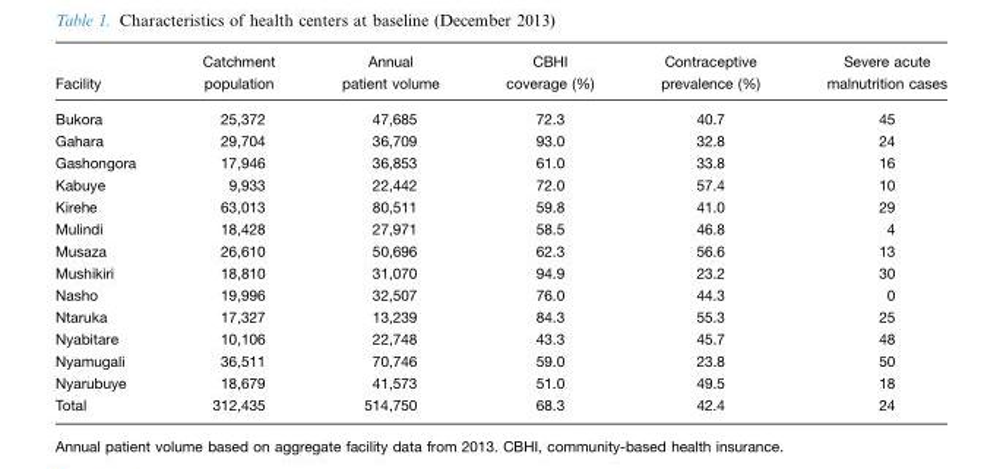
<table><thead><tr><td>Facility</td><td>Catchment population</td><td>Annual patient volume</td><td>CBHI coverage (%)</td><td>Contraceptive prevalence (%)</td><td>Severe acute malnutrition cases</td></tr></thead><tbody><tr><td>Bukora</td><td>25,372</td><td>47,685</td><td>72.3</td><td>40.7</td><td>45</td></tr><tr><td>Gahara</td><td>29,704</td><td>36,709</td><td>93.0</td><td>32.8</td><td>24</td></tr><tr><td>Gashongora</td><td>17,946</td><td>36,853</td><td>61.0</td><td>33.8</td><td>16</td></tr><tr><td>Kabuye</td><td>9,933</td><td>22,442</td><td>72.0</td><td>57.4</td><td>10</td></tr><tr><td>Kirehe</td><td>63,013</td><td>80,511</td><td>59.8</td><td>41.0</td><td>29</td></tr><tr><td>Mulindi</td><td>18,428</td><td>27,971</td><td>58.5</td><td>46.8</td><td>4</td></tr><tr><td>Musaza</td><td>26,610</td><td>50,696</td><td>62.3</td><td>56.6</td><td>13</td></tr><tr><td>Mushikiri</td><td>18,810</td><td>31,070</td><td>94.9</td><td>23.2</td><td>30</td></tr><tr><td>Nasho</td><td>19,996</td><td>32,507</td><td>76.0</td><td>44.3</td><td>0</td></tr><tr><td>Ntaruka</td><td>17,327</td><td>13,239</td><td>84.3</td><td>55.3</td><td>25</td></tr><tr><td>Nyabitare</td><td>10,106</td><td>22,748</td><td>43.3</td><td>45.7</td><td>48</td></tr><tr><td>Nyamugali</td><td>36,511</td><td>70,746</td><td>59.0</td><td>23.8</td><td>50</td></tr><tr><td>Nyarubuye</td><td>18,679</td><td>41,573</td><td>51.0</td><td>49.5</td><td>18</td></tr><tr><td>Total</td><td>312,435</td><td>514,750</td><td>68.3</td><td>42.4</td><td>24</td></tr></tbody></table>